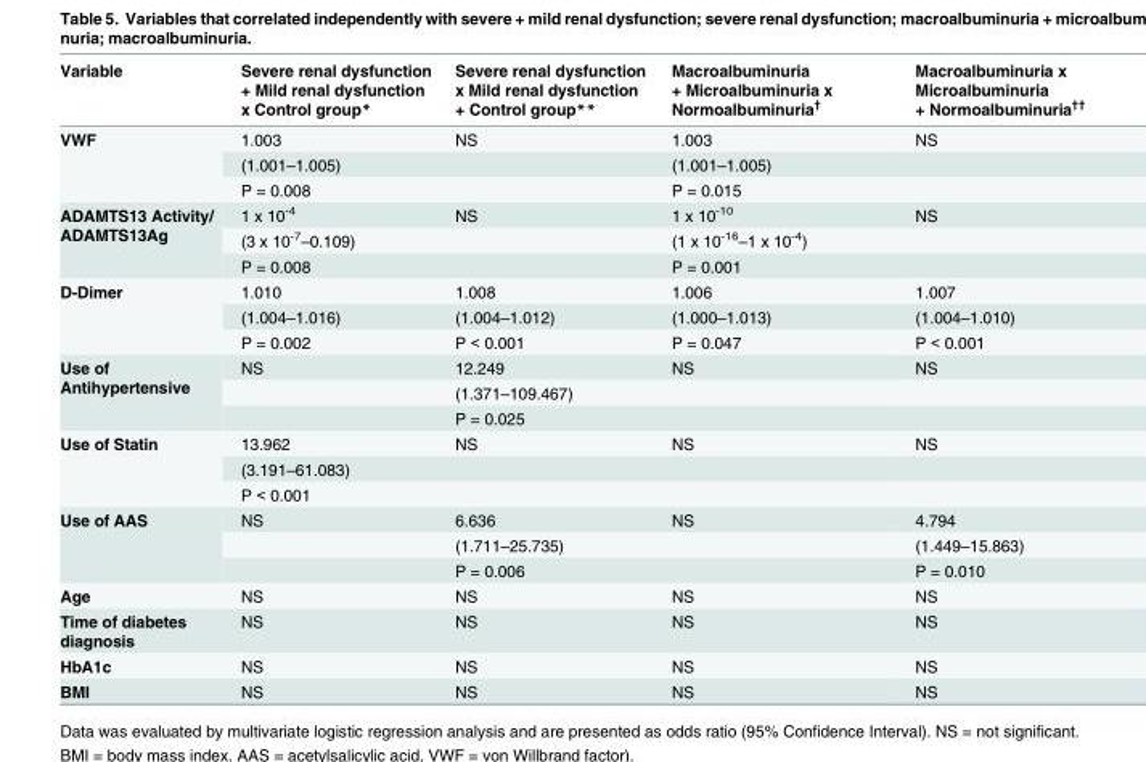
<table><thead><tr><td>Variable</td><td>Severe renal dysfunction + Mild renal dysfunction x Control group*</td><td>Severe renal dysfunction x Mild renal dysfunction + Control group**</td><td>Macroalbuminuria + Microalbuminuria x Normoalbuminuria<sup>†</sup></td><td>Macroalbuminuria x Microalbuminuria + Normoalbuminuria<sup>††</sup></td></tr></thead><tbody><tr><td rowspan="3">VWF</td><td>1.003</td><td>NS</td><td>1.003</td><td>NS</td></tr><tr><td>(1.001–1.005)</td><td></td><td>(1.001–1.005)</td><td></td></tr><tr><td>P = 0.008</td><td></td><td>P = 0.015</td><td></td></tr><tr><td rowspan="3">ADAMTS13 Activity/ ADAMTS13Ag</td><td>1 x 10<sup>-4</sup></td><td>NS</td><td>1 x 10<sup>-10</sup></td><td>NS</td></tr><tr><td>(3 x 10<sup>-7</sup>–0.109)</td><td></td><td>(1 x 10<sup>-16</sup>–1 x 10<sup>-4</sup>)</td><td></td></tr><tr><td>P = 0.008</td><td></td><td>P = 0.001</td><td></td></tr><tr><td rowspan="3">D-Dimer</td><td>1.010</td><td>1.008</td><td>1.006</td><td>1.007</td></tr><tr><td>(1.004–1.016)</td><td>(1.004–1.012)</td><td>(1.000–1.013)</td><td>(1.004–1.010)</td></tr><tr><td>P = 0.002</td><td>P &lt; 0.001</td><td>P = 0.047</td><td>P &lt; 0.001</td></tr><tr><td rowspan="3">Use of Antihypertensive</td><td>NS</td><td>12.249</td><td>NS</td><td>NS</td></tr><tr><td></td><td>(1.371–109.467)</td><td></td><td></td></tr><tr><td></td><td>P = 0.025</td><td></td><td></td></tr><tr><td rowspan="3">Use of Statin</td><td>13.962</td><td>NS</td><td>NS</td><td>NS</td></tr><tr><td>(3.191–61.083)</td><td></td><td></td><td></td></tr><tr><td>P &lt; 0.001</td><td></td><td></td><td></td></tr><tr><td rowspan="3">Use of AAS</td><td>NS</td><td>6.636</td><td>NS</td><td>4.794</td></tr><tr><td></td><td>(1.711–25.735)</td><td></td><td>(1.449–15.863)</td></tr><tr><td></td><td>P = 0.006</td><td></td><td>P = 0.010</td></tr><tr><td>Age</td><td>NS</td><td>NS</td><td>NS</td><td>NS</td></tr><tr><td>Time of diabetes diagnosis</td><td>NS</td><td>NS</td><td>NS</td><td>NS</td></tr><tr><td>HbA1c</td><td>NS</td><td>NS</td><td>NS</td><td>NS</td></tr><tr><td>BMI</td><td>NS</td><td>NS</td><td>NS</td><td>NS</td></tr></tbody></table>